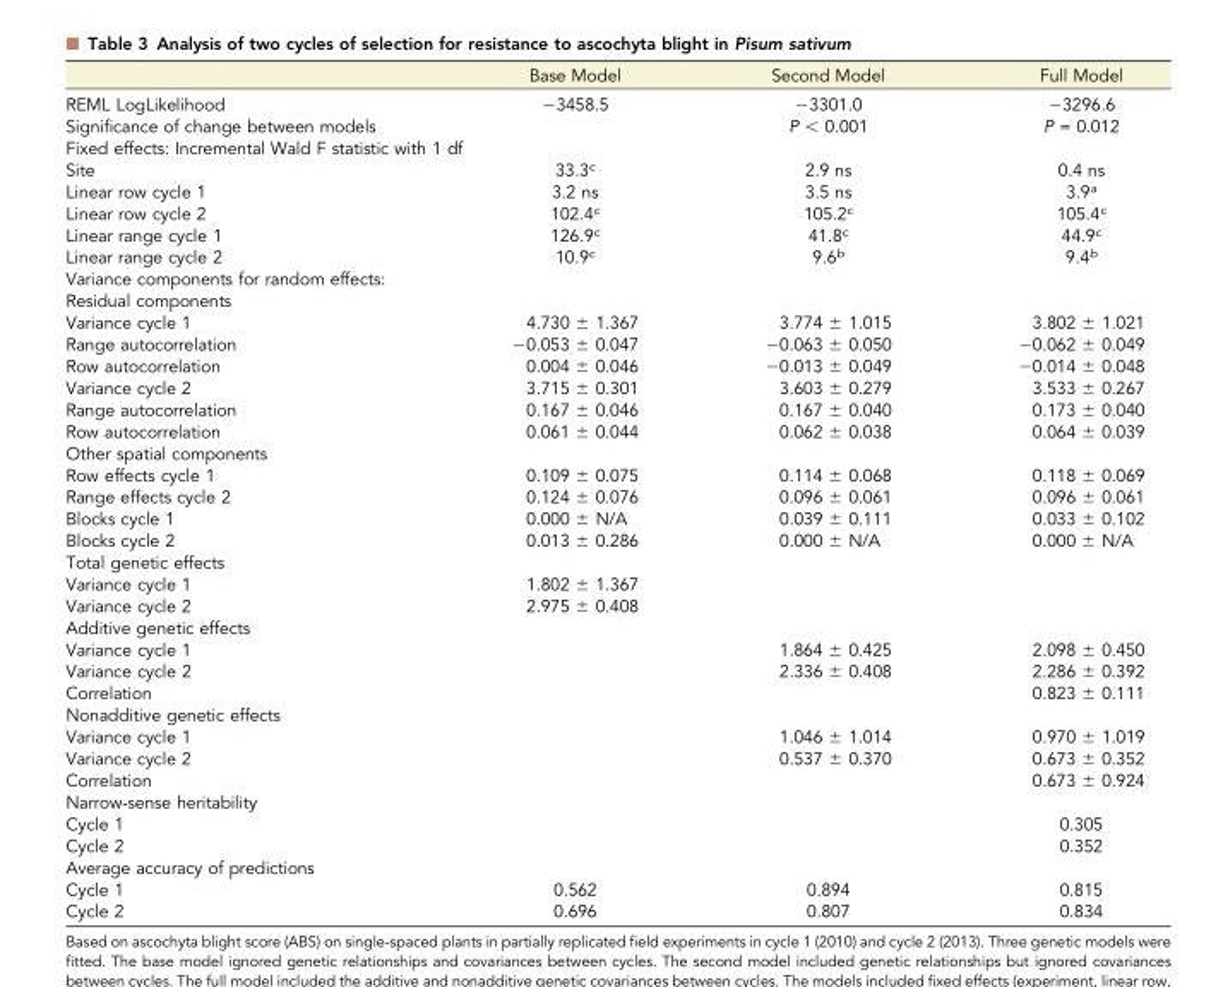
<table><thead><tr><td></td><td>Base Model</td><td>Second Model</td><td>Full Model</td></tr></thead><tbody><tr><td>REML LogLikelihood</td><td>−3458.5</td><td>−3301.0</td><td>−3296.6</td></tr><tr><td>Significance of change between models</td><td></td><td>P &lt; 0.001</td><td>P = 0.012</td></tr><tr><td colspan="4">Fixed effects: Incremental Wald F statistic with 1 df</td></tr><tr><td>Site</td><td>33.3<sup>c</sup></td><td>2.9 ns</td><td>0.4 ns</td></tr><tr><td>Linear row cycle 1</td><td>3.2 ns</td><td>3.5 ns</td><td>3.9<sup>a</sup></td></tr><tr><td>Linear row cycle 2</td><td>102.4<sup>c</sup></td><td>105.2<sup>c</sup></td><td>105.4<sup>c</sup></td></tr><tr><td>Linear range cycle 1</td><td>126.9<sup>c</sup></td><td>41.8<sup>c</sup></td><td>44.9<sup>c</sup></td></tr><tr><td>Linear range cycle 2</td><td>10.9<sup>c</sup></td><td>9.6<sup>b</sup></td><td>9.4<sup>b</sup></td></tr><tr><td colspan="4">Variance components for random effects:</td></tr><tr><td colspan="4">Residual components</td></tr><tr><td>Variance cycle 1</td><td>4.730 ± 1.367</td><td>3.774 ± 1.015</td><td>3.802 ± 1.021</td></tr><tr><td>Range autocorrelation</td><td>−0.053 ± 0.047</td><td>−0.063 ± 0.050</td><td>−0.062 ± 0.049</td></tr><tr><td>Row autocorrelation</td><td>0.004 ± 0.046</td><td>−0.013 ± 0.049</td><td>−0.014 ± 0.048</td></tr><tr><td>Variance cycle 2</td><td>3.715 ± 0.301</td><td>3.603 ± 0.279</td><td>3.533 ± 0.267</td></tr><tr><td>Range autocorrelation</td><td>0.167 ± 0.046</td><td>0.167 ± 0.040</td><td>0.173 ± 0.040</td></tr><tr><td>Row autocorrelation</td><td>0.061 ± 0.044</td><td>0.062 ± 0.038</td><td>0.064 ± 0.039</td></tr><tr><td colspan="4">Other spatial components</td></tr><tr><td>Row effects cycle 1</td><td>0.109 ± 0.075</td><td>0.114 ± 0.068</td><td>0.118 ± 0.069</td></tr><tr><td>Range effects cycle 2</td><td>0.124 ± 0.076</td><td>0.096 ± 0.061</td><td>0.096 ± 0.061</td></tr><tr><td>Blocks cycle 1</td><td>0.000 ± N/A</td><td>0.039 ± 0.111</td><td>0.033 ± 0.102</td></tr><tr><td>Blocks cycle 2</td><td>0.013 ± 0.286</td><td>0.000 ± N/A</td><td>0.000 ± N/A</td></tr><tr><td colspan="4">Total genetic effects</td></tr><tr><td>Variance cycle 1</td><td>1.802 ± 1.367</td><td></td><td></td></tr><tr><td>Variance cycle 2</td><td>2.975 ± 0.408</td><td></td><td></td></tr><tr><td colspan="4">Additive genetic effects</td></tr><tr><td>Variance cycle 1</td><td></td><td>1.864 ± 0.425</td><td>2.098 ± 0.450</td></tr><tr><td>Variance cycle 2</td><td></td><td>2.336 ± 0.408</td><td>2.286 ± 0.392</td></tr><tr><td>Correlation</td><td></td><td></td><td>0.823 ± 0.111</td></tr><tr><td colspan="4">Nonadditive genetic effects</td></tr><tr><td>Variance cycle 1</td><td></td><td>1.046 ± 1.014</td><td>0.970 ± 1.019</td></tr><tr><td>Variance cycle 2</td><td></td><td>0.537 ± 0.370</td><td>0.673 ± 0.352</td></tr><tr><td>Correlation</td><td></td><td></td><td>0.673 ± 0.924</td></tr><tr><td colspan="4">Narrow-sense heritability</td></tr><tr><td>Cycle 1</td><td></td><td></td><td>0.305</td></tr><tr><td>Cycle 2</td><td></td><td></td><td>0.352</td></tr><tr><td colspan="4">Average accuracy of predictions</td></tr><tr><td>Cycle 1</td><td>0.562</td><td>0.894</td><td>0.815</td></tr><tr><td>Cycle 2</td><td>0.696</td><td>0.807</td><td>0.834</td></tr></tbody></table>